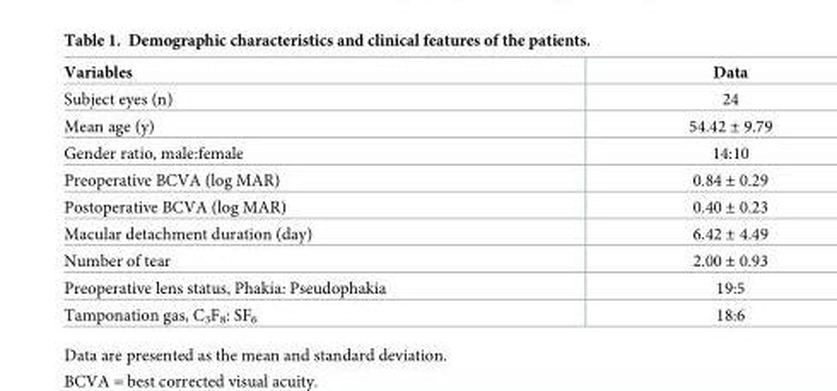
<table><thead><tr><td>Variables</td><td>Data</td></tr></thead><tbody><tr><td>Subject eyes (n)</td><td>24</td></tr><tr><td>Mean age (y)</td><td>54.42 ± 9.79</td></tr><tr><td>Gender ratio, male:female</td><td>14:10</td></tr><tr><td>Preoperative BCVA (log MAR)</td><td>0.84 ± 0.29</td></tr><tr><td>Postoperative BCVA (log MAR)</td><td>0.40 ± 0.23</td></tr><tr><td>Macular detachment duration (day)</td><td>6.42 ± 4.49</td></tr><tr><td>Number of tear</td><td>2.00 ± 0.93</td></tr><tr><td>Preoperative lens status, Phakia: Pseudophakia</td><td>19:5</td></tr><tr><td>Tamponation gas, C<sub>3</sub>F<sub>8</sub>: SF<sub>6</sub></td><td>18:6</td></tr></tbody></table>